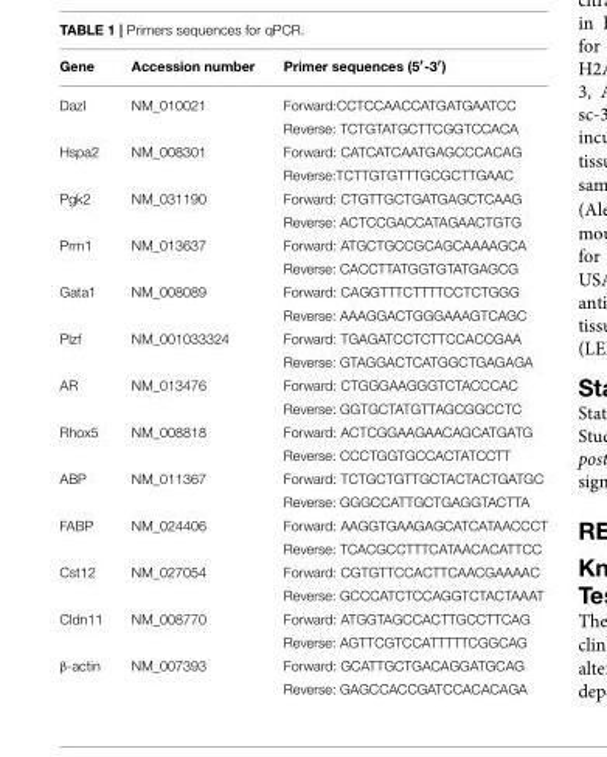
<table><thead><tr><td>Gene</td><td>Accession number</td><td>Primer sequences (5′-3′)</td></tr></thead><tbody><tr><td rowspan="2">Dazl</td><td>NM_010021</td><td>Forward:CCTCCAACCATGATGAATCC</td></tr><tr><td></td><td>Reverse: TCTGTATGCTTCGGTCCACA</td></tr><tr><td rowspan="2">Hspa2</td><td>NM_008301</td><td>Forward: CATCATCAATGAGCCCACAG</td></tr><tr><td></td><td>Reverse:TCTTGTGTTTGCGCTTGAAC</td></tr><tr><td rowspan="2">Pgk2</td><td>NM_031190</td><td>Forward: CTGTTGCTGATGAGCTCAAG</td></tr><tr><td></td><td>Reverse: ACTCCGACCATAGAACTGTG</td></tr><tr><td rowspan="2">Prm1</td><td>NM_013637</td><td>Forward: ATGCTGCCGCAGCAAAAGCA</td></tr><tr><td></td><td>Reverse: CACCTTATGGTGTATGAGCG</td></tr><tr><td rowspan="2">Gata1</td><td>NM_008089</td><td>Forward: CAGGTTTCTTTTCCTCTGGG</td></tr><tr><td></td><td>Reverse: AAAGGACTGGGAAAGTCAGC</td></tr><tr><td rowspan="2">Plzf</td><td>NM_001033324</td><td>Forward: TGAGATCCTCTTCCACCGAA</td></tr><tr><td></td><td>Reverse: GTAGGACTCATGGCTGAGAGA</td></tr><tr><td rowspan="2">AR</td><td>NM_013476</td><td>Forward: CTGGGAAGGGTCTACCCAC</td></tr><tr><td></td><td>Reverse: GGTGCTATGTTAGCGGCCTC</td></tr><tr><td rowspan="2">Rhox5</td><td>NM_008818</td><td>Forward: ACTCGGAAGAACAGCATGATG</td></tr><tr><td></td><td>Reverse: CCCTGGTGCCACTATCCTT</td></tr><tr><td rowspan="2">ABP</td><td>NM_011367</td><td>Forward: TCTGCTGTTGCTACTACTGATGC</td></tr><tr><td></td><td>Reverse: GGGCCATTGCTGAGGTACTTA</td></tr><tr><td rowspan="2">FABP</td><td>NM_024406</td><td>Forward: AAGGTGAAGAGCATCATAACCCT</td></tr><tr><td></td><td>Reverse: TCACGCCTTTCATAACACATTCC</td></tr><tr><td rowspan="2">Cst12</td><td>NM_027054</td><td>Forward: CGTGTTCCACTTCAACGAAAAC</td></tr><tr><td></td><td>Reverse: GCCCATCTCCAGGTCTACTAAAT</td></tr><tr><td rowspan="2">Cldn11</td><td>NM_008770</td><td>Forward: ATGGTAGCCACTTGCCTTCAG</td></tr><tr><td></td><td>Reverse: AGTTCGTCCATTTTTCGGCAG</td></tr><tr><td rowspan="2">β-actin</td><td>NM_007393</td><td>Forward: GCATTGCTGACAGGATGCAG</td></tr><tr><td></td><td>Reverse: GAGCCACCGATCCACACAGA</td></tr></tbody></table>